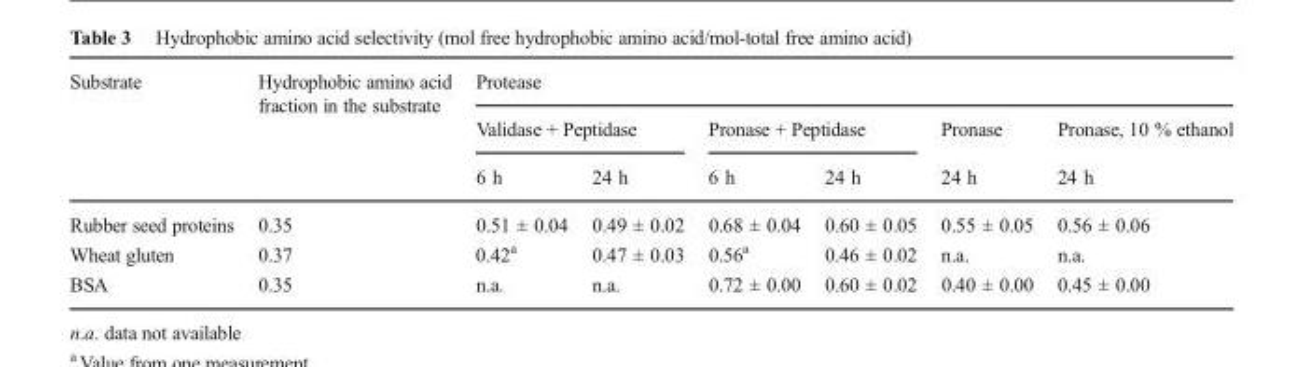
<table><thead><tr><td rowspan="3">Substrate</td><td rowspan="3">Hydrophobic amino acid fraction in the substrate</td><td colspan="6">Protease</td></tr><tr><td colspan="2">Validase + Peptidase</td><td colspan="2">Pronase + Peptidase</td><td rowspan="2">Pronase 24 h</td><td rowspan="2">Pronase, 10 % ethanol 24 h</td></tr><tr><td>6 h</td><td>24 h</td><td>6 h</td><td>24 h</td></tr></thead><tbody><tr><td>Rubber seed proteins</td><td>0.35</td><td>0.51 ± 0.04</td><td>0.49 ± 0.02</td><td>0.68 ± 0.04</td><td>0.60 ± 0.05</td><td>0.55 ± 0.05</td><td>0.56 ± 0.06</td></tr><tr><td>Wheat gluten</td><td>0.37</td><td>0.42<sup>a</sup></td><td>0.47 ± 0.03</td><td>0.56<sup>a</sup></td><td>0.46 ± 0.02</td><td>n.a.</td><td>n.a.</td></tr><tr><td>BSA</td><td>0.35</td><td>n.a.</td><td>n.a.</td><td>0.72 ± 0.00</td><td>0.60 ± 0.02</td><td>0.40 ± 0.00</td><td>0.45 ± 0.00</td></tr></tbody></table>